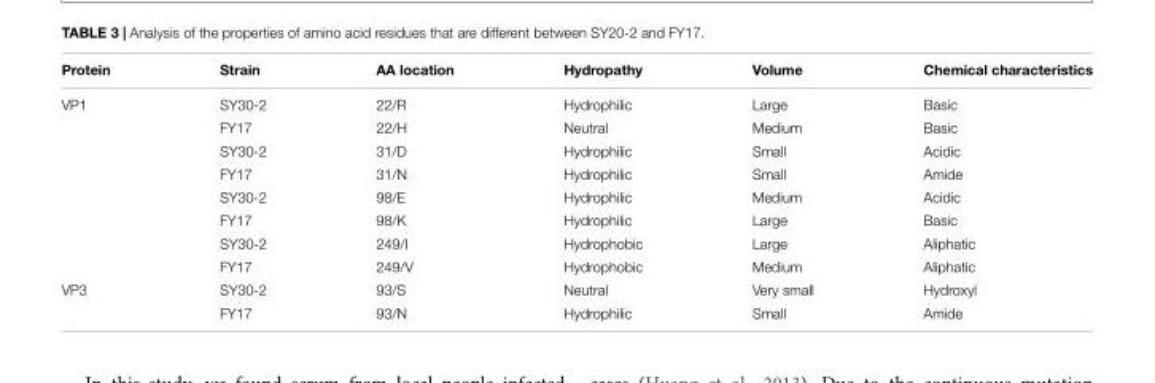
<table><thead><tr><td>Protein</td><td>Strain</td><td>AA location</td><td>Hydropathy</td><td>Volume</td><td>Chemical characteristics</td></tr></thead><tbody><tr><td rowspan="8">VP1</td><td>SY30-2</td><td>22/R</td><td>Hydrophilic</td><td>Large</td><td>Basic</td></tr><tr><td>FY17</td><td>22/H</td><td>Neutral</td><td>Medium</td><td>Basic</td></tr><tr><td>SY30-2</td><td>31/D</td><td>Hydrophilic</td><td>Small</td><td>Acidic</td></tr><tr><td>FY17</td><td>31/N</td><td>Hydrophilic</td><td>Small</td><td>Amide</td></tr><tr><td>SY30-2</td><td>98/E</td><td>Hydrophilic</td><td>Medium</td><td>Acidic</td></tr><tr><td>FY17</td><td>98/K</td><td>Hydrophilic</td><td>Large</td><td>Basic</td></tr><tr><td>SY30-2</td><td>249/I</td><td>Hydrophobic</td><td>Large</td><td>Aliphatic</td></tr><tr><td>FY17</td><td>249/V</td><td>Hydrophobic</td><td>Medium</td><td>Aliphatic</td></tr><tr><td rowspan="2">VP3</td><td>SY30-2</td><td>93/S</td><td>Neutral</td><td>Very small</td><td>Hydroxyl</td></tr><tr><td>FY17</td><td>93/N</td><td>Hydrophilic</td><td>Small</td><td>Amide</td></tr></tbody></table>